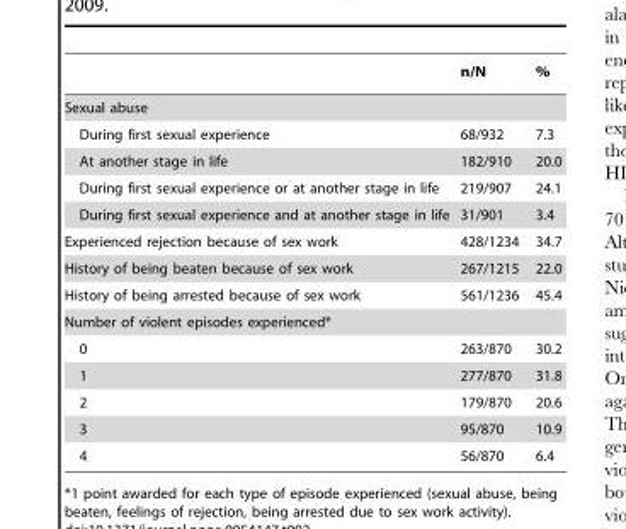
<table><thead><tr><td></td><td>n/N</td><td>%</td></tr></thead><tbody><tr><td colspan="3">Sexual abuse</td></tr><tr><td>During first sexual experience</td><td>68/932</td><td>7.3</td></tr><tr><td>At another stage in life</td><td>182/910</td><td>20.0</td></tr><tr><td>During first sexual experience or at another stage in life</td><td>219/907</td><td>24.1</td></tr><tr><td>During first sexual experience and at another stage in life</td><td>31/901</td><td>3.4</td></tr><tr><td>Experienced rejection because of sex work</td><td>428/1234</td><td>34.7</td></tr><tr><td>History of being beaten because of sex work</td><td>267/1215</td><td>22.0</td></tr><tr><td>History of being arrested because of sex work</td><td>561/1236</td><td>45.4</td></tr><tr><td colspan="3">Number of violent episodes experienced*</td></tr><tr><td>0</td><td>263/870</td><td>30.2</td></tr><tr><td>1</td><td>277/870</td><td>31.8</td></tr><tr><td>2</td><td>179/870</td><td>20.6</td></tr><tr><td>3</td><td>95/870</td><td>10.9</td></tr><tr><td>4</td><td>56/870</td><td>6.4</td></tr></tbody></table>